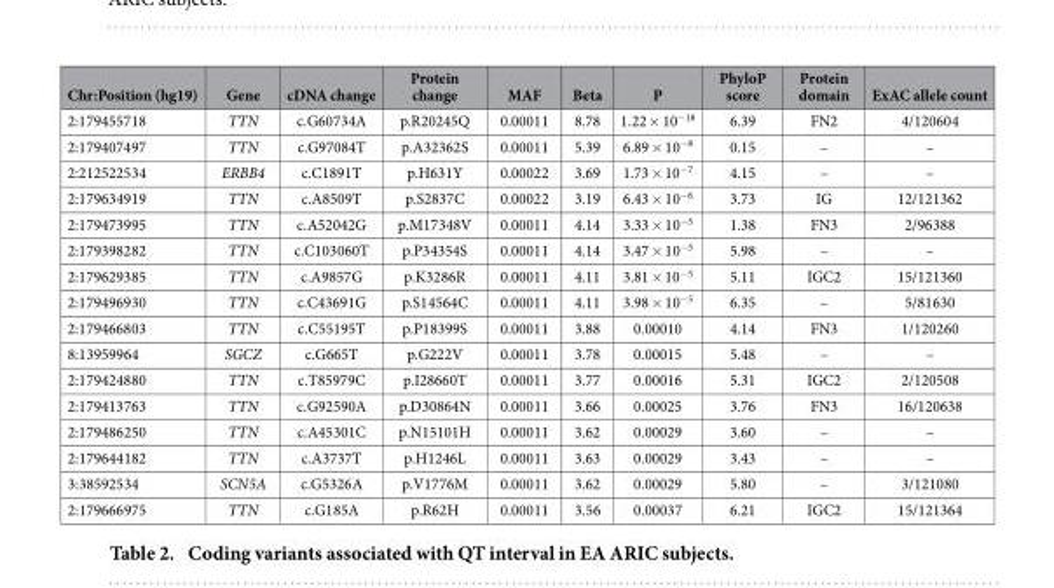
<table><thead><tr><td>Chr:Position (hg19)</td><td>Gene</td><td>cDNA change</td><td>Protein change</td><td>MAF</td><td>Beta</td><td>P</td><td>PhyloP score</td><td>Protein domain</td><td>ExAC allele count</td></tr></thead><tbody><tr><td>2:179455718</td><td>TTN</td><td>c.G60734A</td><td>p.R20245Q</td><td>0.00011</td><td>8.78</td><td>1.22 × 10<sup>−18</sup></td><td>6.39</td><td>FN2</td><td>4/120604</td></tr><tr><td>2:179407497</td><td>TTN</td><td>c.G97084T</td><td>p.A32362S</td><td>0.00011</td><td>5.39</td><td>6.89 × 10<sup>−8</sup></td><td>0.15</td><td>–</td><td>–</td></tr><tr><td>2:212522534</td><td>ERBB4</td><td>c.C1891T</td><td>p.H631Y</td><td>0.00022</td><td>3.69</td><td>1.73 × 10<sup>−7</sup></td><td>4.15</td><td>–</td><td>–</td></tr><tr><td>2:179634919</td><td>TTN</td><td>c.A8509T</td><td>p.S2837C</td><td>0.00022</td><td>3.19</td><td>6.43 × 10<sup>−6</sup></td><td>3.73</td><td>IG</td><td>12/121362</td></tr><tr><td>2:179473995</td><td>TTN</td><td>c.A52042G</td><td>p.M17348V</td><td>0.00011</td><td>4.14</td><td>3.33 × 10<sup>−5</sup></td><td>1.38</td><td>FN3</td><td>2/96388</td></tr><tr><td>2:179398282</td><td>TTN</td><td>c.C103060T</td><td>p.P34354S</td><td>0.00011</td><td>4.14</td><td>3.47 × 10<sup>−5</sup></td><td>5.98</td><td>–</td><td>–</td></tr><tr><td>2:179629385</td><td>TTN</td><td>c.A9857G</td><td>p.K3286R</td><td>0.00011</td><td>4.11</td><td>3.81 × 10<sup>−5</sup></td><td>5.11</td><td>IGC2</td><td>15/121360</td></tr><tr><td>2:179496930</td><td>TTN</td><td>c.C43691G</td><td>p.S14564C</td><td>0.00011</td><td>4.11</td><td>3.98 × 10<sup>−5</sup></td><td>6.35</td><td>–</td><td>5/81630</td></tr><tr><td>2:179466803</td><td>TTN</td><td>c.C55195T</td><td>p.P18399S</td><td>0.00011</td><td>3.88</td><td>0.00010</td><td>4.14</td><td>FN3</td><td>1/120260</td></tr><tr><td>8:13959964</td><td>SGCZ</td><td>c.G665T</td><td>p.G222V</td><td>0.00011</td><td>3.78</td><td>0.00015</td><td>5.48</td><td>–</td><td>–</td></tr><tr><td>2:179424880</td><td>TTN</td><td>c.T85979C</td><td>p.I28660T</td><td>0.00011</td><td>3.77</td><td>0.00016</td><td>5.31</td><td>IGC2</td><td>2/120508</td></tr><tr><td>2:179413763</td><td>TTN</td><td>c.G92590A</td><td>p.D30864N</td><td>0.00011</td><td>3.66</td><td>0.00025</td><td>3.76</td><td>FN3</td><td>16/120638</td></tr><tr><td>2:179486250</td><td>TTN</td><td>c.A45301C</td><td>p.N15101H</td><td>0.00011</td><td>3.62</td><td>0.00029</td><td>3.60</td><td>–</td><td>–</td></tr><tr><td>2:179644182</td><td>TTN</td><td>c.A3737T</td><td>p.H1246L</td><td>0.00011</td><td>3.63</td><td>0.00029</td><td>3.43</td><td>–</td><td>–</td></tr><tr><td>3:38592534</td><td>SCN5A</td><td>c.G5326A</td><td>p.V1776M</td><td>0.00011</td><td>3.62</td><td>0.00029</td><td>5.80</td><td>–</td><td>3/121080</td></tr><tr><td>2:179666975</td><td>TTN</td><td>c.G185A</td><td>p.R62H</td><td>0.00011</td><td>3.56</td><td>0.00037</td><td>6.21</td><td>IGC2</td><td>15/121364</td></tr></tbody></table>